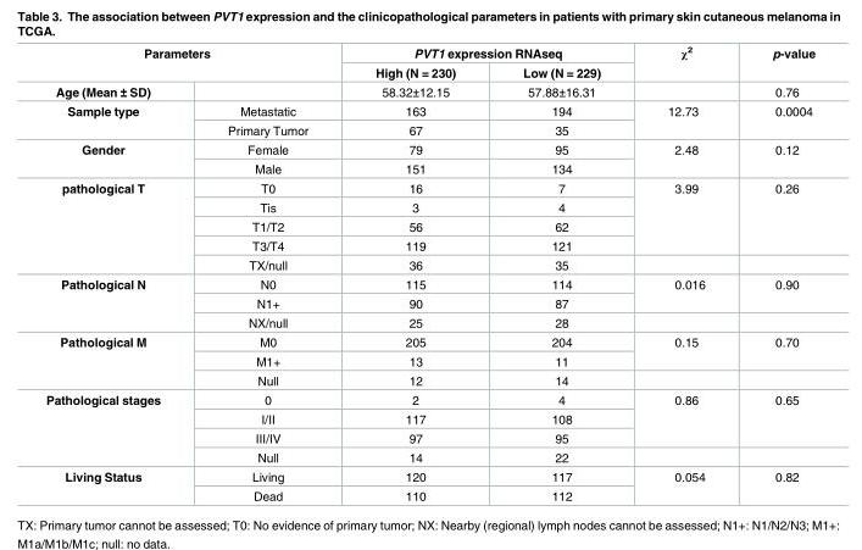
<table><thead><tr><td rowspan="2" colspan="2">Parameters</td><td colspan="2">PVT1 expression RNAseq</td><td rowspan="3">χ<sup>2</sup></td><td rowspan="3">p-value 0.76</td></tr><tr><td rowspan="2">High (N = 230) 58.32±12.15</td><td rowspan="2">Low (N = 229) 57.88±16.31</td></tr><tr><td>Age (Mean ± SD)</td><td></td></tr></thead><tbody><tr><td rowspan="2">Sample type</td><td>Metastatic</td><td>163</td><td>194</td><td rowspan="2">12.73</td><td rowspan="2">0.0004</td></tr><tr><td>Primary Tumor</td><td>67</td><td>35</td></tr><tr><td rowspan="2">Gender</td><td>Female</td><td>79</td><td>95</td><td rowspan="2">2.48</td><td rowspan="2">0.12</td></tr><tr><td>Male</td><td>151</td><td>134</td></tr><tr><td rowspan="5">pathological T</td><td>T0</td><td>16</td><td>7</td><td rowspan="4">3.99</td><td rowspan="4">0.26</td></tr><tr><td>Tis</td><td>3</td><td>4</td></tr><tr><td>T1/T2</td><td>56</td><td>62</td></tr><tr><td>T3/T4</td><td>119</td><td>121</td></tr><tr><td>TX/null</td><td>36</td><td>35</td><td></td><td></td></tr><tr><td rowspan="3">Pathological N</td><td>N0</td><td>115</td><td>114</td><td rowspan="2">0.016</td><td rowspan="2">0.90</td></tr><tr><td>N1+</td><td>90</td><td>87</td></tr><tr><td>NX/null</td><td>25</td><td>28</td><td></td><td></td></tr><tr><td rowspan="3">Pathological M</td><td>M0</td><td>205</td><td>204</td><td rowspan="2">0.15</td><td rowspan="2">0.70</td></tr><tr><td>M1+</td><td>13</td><td>11</td></tr><tr><td>Null</td><td>12</td><td>14</td><td></td><td></td></tr><tr><td rowspan="4">Pathological stages</td><td>0</td><td>2</td><td>4</td><td rowspan="3">0.86</td><td rowspan="3">0.65</td></tr><tr><td>I/II</td><td>117</td><td>108</td></tr><tr><td>III/IV</td><td>97</td><td>95</td></tr><tr><td>Null</td><td>14</td><td>22</td><td></td><td></td></tr><tr><td rowspan="2">Living Status</td><td>Living</td><td>120</td><td>117</td><td rowspan="2">0.054</td><td rowspan="2">0.82</td></tr><tr><td>Dead</td><td>110</td><td>112</td></tr></tbody></table>